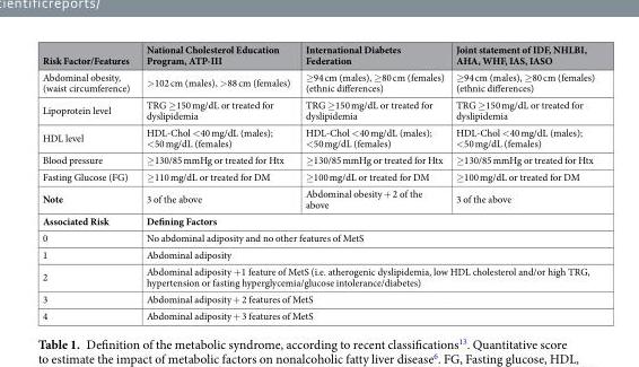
<table><thead><tr><td>Risk Factor/Features</td><td>National Cholesterol Education Program, ATP-III</td><td>International Diabetes Federation</td><td>Joint statement of IDF, NHLBI, AHA, WHF, IAS, IASO</td></tr></thead><tbody><tr><td>Abdominal obesity, (waist circumference)</td><td>&gt;102 cm (males), &gt;88 cm (females)</td><td>≥94 cm (males), ≥80 cm (females) (ethnic differences)</td><td>≥94 cm (males), ≥80 cm (females) (ethnic differences)</td></tr><tr><td>Lipoprotein level</td><td>TRG ≥150 mg/dL or treated for dyslipidemia</td><td>TRG ≥150 mg/dL or treated for dyslipidemia</td><td>TRG ≥150 mg/dL or treated for dyslipidemia</td></tr><tr><td>HDL level</td><td>HDL-Chol &lt;40 mg/dL (males); &lt;50 mg/dL (females)</td><td>HDL-Chol &lt;40 mg/dL (males); &lt;50 mg/dL (females)</td><td>HDL-Chol &lt;40 mg/dL (males); &lt;50 mg/dL (females)</td></tr><tr><td>Blood pressure</td><td>≥130/85 mmHg or treated for Htx</td><td>≥130/85 mmHg or treated for Htx</td><td>≥130/85 mmHg or treated for Htx</td></tr><tr><td>Fasting Glucose (FG)</td><td>≥110 mg/dL or treated for DM</td><td>≥100 mg/dL or treated for DM</td><td>≥100 mg/dL or treated for DM</td></tr><tr><td>Note</td><td>3 of the above</td><td>Abdominal obesity + 2 of the above</td><td>3 of the above</td></tr><tr><td>Associated Risk</td><td colspan="3">Defining Factors</td></tr><tr><td>0</td><td colspan="3">No abdominal adiposity and no other features of MetS</td></tr><tr><td>1</td><td colspan="3">Abdominal adiposity</td></tr><tr><td>2</td><td colspan="3">Abdominal adiposity +1 feature of MetS (i.e. atherogenic dyslipidemia, low HDL cholesterol and/or high TRG, hypertension or fasting hyperglycemia/glucose intolerance/diabetes)</td></tr><tr><td>3</td><td colspan="3">Abdominal adiposity + 2 features of MetS</td></tr><tr><td>4</td><td colspan="3">Abdominal adiposity + 3 features of MetS</td></tr></tbody></table>